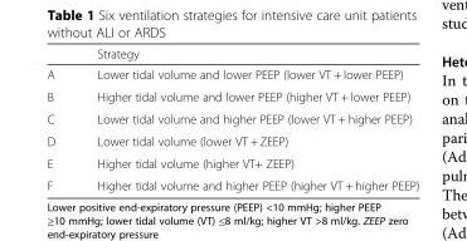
<table><thead><tr><td></td><td>Strategy</td></tr></thead><tbody><tr><td>A</td><td>Lower tidal volume and lower PEEP (lower VT + lower PEEP)</td></tr><tr><td>B</td><td>Higher tidal volume and lower PEEP (higher VT + lower PEEP)</td></tr><tr><td>C</td><td>Lower tidal volume and higher PEEP (lower VT + higher PEEP)</td></tr><tr><td>D</td><td>Lower tidal volume (lower VT + ZEEP)</td></tr><tr><td>E</td><td>Higher tidal volume (higher VT+ ZEEP)</td></tr><tr><td>F</td><td>Higher tidal volume and higher PEEP (higher VT + higher PEEP)</td></tr></tbody></table>